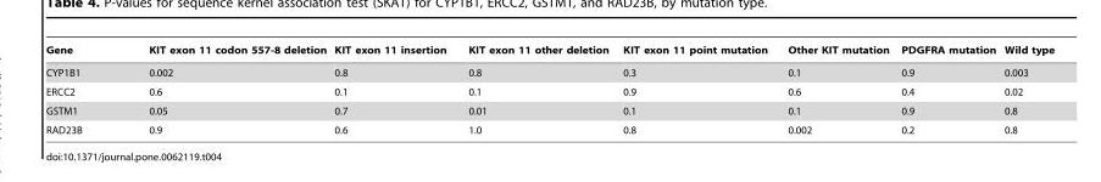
<table><thead><tr><td>Gene</td><td>KIT exon 11 codon 557-8 deletion</td><td>KIT exon 11 insertion</td><td>KIT exon 11 other deletion</td><td>KIT exon 11 point mutation</td><td>Other KIT mutation</td><td>PDGFRA mutation</td><td>Wild type</td></tr></thead><tbody><tr><td>CYP1B1</td><td>0.002</td><td>0.8</td><td>0.8</td><td>0.3</td><td>0.1</td><td>0.9</td><td>0.003</td></tr><tr><td>ERCC2</td><td>0.6</td><td>0.1</td><td>0.1</td><td>0.9</td><td>0.6</td><td>0.4</td><td>0.02</td></tr><tr><td>GSTM1</td><td>0.05</td><td>0.7</td><td>0.01</td><td>0.1</td><td>0.1</td><td>0.9</td><td>0.8</td></tr><tr><td>RAD23B</td><td>0.9</td><td>0.6</td><td>1.0</td><td>0.8</td><td>0.002</td><td>0.2</td><td>0.8</td></tr></tbody></table>